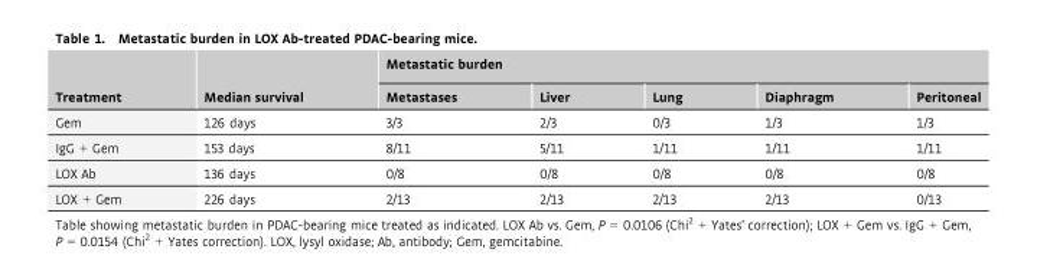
<table><thead><tr><td rowspan="2">Treatment</td><td rowspan="2">Median survival</td><td colspan="5">Metastatic burden</td></tr><tr><td>Metastases</td><td>Liver</td><td>Lung</td><td>Diaphragm</td><td>Peritoneal</td></tr></thead><tbody><tr><td>Gem</td><td>126 days</td><td>3/3</td><td>2/3</td><td>0/3</td><td>1/3</td><td>1/3</td></tr><tr><td>IgG + Gem</td><td>153 days</td><td>8/11</td><td>5/11</td><td>1/11</td><td>1/11</td><td>1/11</td></tr><tr><td>LOX Ab</td><td>136 days</td><td>0/8</td><td>0/8</td><td>0/8</td><td>0/8</td><td>0/8</td></tr><tr><td>LOX + Gem</td><td>226 days</td><td>2/13</td><td>2/13</td><td>2/13</td><td>2/13</td><td>0/13</td></tr></tbody></table>